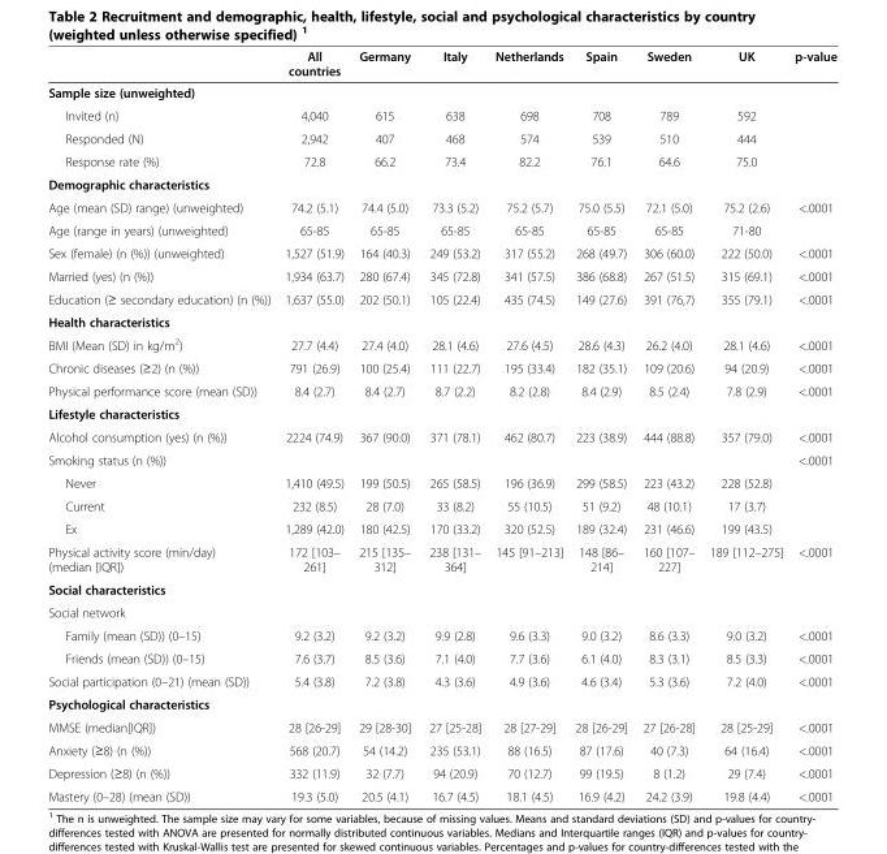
<table><thead><tr><td></td><td>All countries</td><td>Germany</td><td>Italy</td><td>Netherlands</td><td>Spain</td><td>Sweden</td><td>UK</td><td>p-value</td></tr></thead><tbody><tr><td colspan="9">Sample size (unweighted)</td></tr><tr><td>Invited (n)</td><td>4,040</td><td>615</td><td>638</td><td>698</td><td>708</td><td>789</td><td>592</td><td></td></tr><tr><td>Responded (N)</td><td>2,942</td><td>407</td><td>468</td><td>574</td><td>539</td><td>510</td><td>444</td><td></td></tr><tr><td>Response rate (%)</td><td>72.8</td><td>66.2</td><td>73.4</td><td>82.2</td><td>76.1</td><td>64.6</td><td>75.0</td><td></td></tr><tr><td colspan="9">Demographic characteristics</td></tr><tr><td>Age (mean (SD) range) (unweighted)</td><td>74.2 (5.1)</td><td>74.4 (5.0)</td><td>73.3 (5.2)</td><td>75.2 (5.7)</td><td>75.0 (5.5)</td><td>72.1 (5.0)</td><td>75.2 (2.6)</td><td>&lt;.0001</td></tr><tr><td>Age (range in years) (unweighted)</td><td>65-85</td><td>65-85</td><td>65-85</td><td>65-85</td><td>65-85</td><td>65-85</td><td>71-80</td><td></td></tr><tr><td>Sex (female) (n (%)) (unweighted)</td><td>1,527 (51.9)</td><td>164 (40.3)</td><td>249 (53.2)</td><td>317 (55.2)</td><td>268 (49.7)</td><td>306 (60.0)</td><td>222 (50.0)</td><td>&lt;.0001</td></tr><tr><td>Married (yes) (n (%))</td><td>1,934 (63.7)</td><td>280 (67.4)</td><td>345 (72.8)</td><td>341 (57.5)</td><td>386 (68.8)</td><td>267 (51.5)</td><td>315 (69.1)</td><td>&lt;.0001</td></tr><tr><td>Education (≥ secondary education) (n (%))</td><td>1,637 (55.0)</td><td>202 (50.1)</td><td>105 (22.4)</td><td>435 (74.5)</td><td>149 (27.6)</td><td>391 (76,7)</td><td>355 (79.1)</td><td>&lt;.0001</td></tr><tr><td colspan="9">Health characteristics</td></tr><tr><td>BMI (Mean (SD) in kg/m<sup>2</sup>)</td><td>27.7 (4.4)</td><td>27.4 (4.0)</td><td>28.1 (4.6)</td><td>27.6 (4.5)</td><td>28.6 (4.3)</td><td>26.2 (4.0)</td><td>28.1 (4.6)</td><td>&lt;.0001</td></tr><tr><td>Chronic diseases (≥2) (n (%))</td><td>791 (26.9)</td><td>100 (25.4)</td><td>111 (22.7)</td><td>195 (33.4)</td><td>182 (35.1)</td><td>109 (20.6)</td><td>94 (20.9)</td><td>&lt;.0001</td></tr><tr><td>Physical performance score (mean (SD))</td><td>8.4 (2.7)</td><td>8.4 (2.7)</td><td>8.7 (2.2)</td><td>8.2 (2.8)</td><td>8.4 (2.9)</td><td>8.5 (2.4)</td><td>7.8 (2.9)</td><td>&lt;.0001</td></tr><tr><td colspan="9">Lifestyle characteristics</td></tr><tr><td>Alcohol consumption (yes) (n (%))</td><td>2224 (74.9)</td><td>367 (90.0)</td><td>371 (78.1)</td><td>462 (80.7)</td><td>223 (38.9)</td><td>444 (88.8)</td><td>357 (79.0)</td><td>&lt;.0001</td></tr><tr><td colspan="8">Smoking status (n (%))</td><td rowspan="4">&lt;.0001</td></tr><tr><td>Never</td><td>1,410 (49.5)</td><td>199 (50.5)</td><td>265 (58.5)</td><td>196 (36.9)</td><td>299 (58.5)</td><td>223 (43.2)</td><td>228 (52.8)</td></tr><tr><td>Current</td><td>232 (8.5)</td><td>28 (7.0)</td><td>33 (8.2)</td><td>55 (10.5)</td><td>51 (9.2)</td><td>48 (10.1)</td><td>17 (3.7)</td></tr><tr><td>Ex</td><td>1,289 (42.0)</td><td>180 (42.5)</td><td>170 (33.2)</td><td>320 (52.5)</td><td>189 (32.4)</td><td>231 (46.6)</td><td>199 (43.5)</td></tr><tr><td>Physical activity score (min/day) (median [IQR])</td><td>172 [103– 261]</td><td>215 [135– 312]</td><td>238 [131– 364]</td><td>145 [91–213]</td><td>148 [86– 214]</td><td>160 [107– 227]</td><td>189 [112–275]</td><td>&lt;.0001</td></tr><tr><td colspan="9">Social characteristics</td></tr><tr><td colspan="9">Social network</td></tr><tr><td>Family (mean (SD)) (0–15)</td><td>9.2 (3.2)</td><td>9.2 (3.2)</td><td>9.9 (2.8)</td><td>9.6 (3.3)</td><td>9.0 (3.2)</td><td>8.6 (3.3)</td><td>9.0 (3.2)</td><td>&lt;.0001</td></tr><tr><td>Friends (mean (SD)) (0–15)</td><td>7.6 (3.7)</td><td>8.5 (3.6)</td><td>7.1 (4.0)</td><td>7.7 (3.6)</td><td>6.1 (4.0)</td><td>8.3 (3.1)</td><td>8.5 (3.3)</td><td>&lt;.0001</td></tr><tr><td>Social participation (0–21) (mean (SD))</td><td>5.4 (3.8)</td><td>7.2 (3.8)</td><td>4.3 (3.6)</td><td>4.9 (3.6)</td><td>4.6 (3.4)</td><td>5.3 (3.6)</td><td>7.2 (4.0)</td><td>&lt;.0001</td></tr><tr><td colspan="9">Psychological characteristics</td></tr><tr><td>MMSE (median[IQR])</td><td>28 [26-29]</td><td>29 [28-30]</td><td>27 [25-28]</td><td>28 [27-29]</td><td>28 [26-29]</td><td>27 [26-28]</td><td>28 [25-29]</td><td>&lt;.0001</td></tr><tr><td>Anxiety (≥8) (n (%))</td><td>568 (20.7)</td><td>54 (14.2)</td><td>235 (53.1)</td><td>88 (16.5)</td><td>87 (17.6)</td><td>40 (7.3)</td><td>64 (16.4)</td><td>&lt;.0001</td></tr><tr><td>Depression (≥8) (n (%))</td><td>332 (11.9)</td><td>32 (7.7)</td><td>94 (20.9)</td><td>70 (12.7)</td><td>99 (19.5)</td><td>8 (1.2)</td><td>29 (7.4)</td><td>&lt;.0001</td></tr><tr><td>Mastery (0–28) (mean (SD))</td><td>19.3 (5.0)</td><td>20.5 (4.1)</td><td>16.7 (4.5)</td><td>18.1 (4.5)</td><td>16.9 (4.2)</td><td>24.2 (3.9)</td><td>19.8 (4.4)</td><td>&lt;.0001</td></tr></tbody></table>